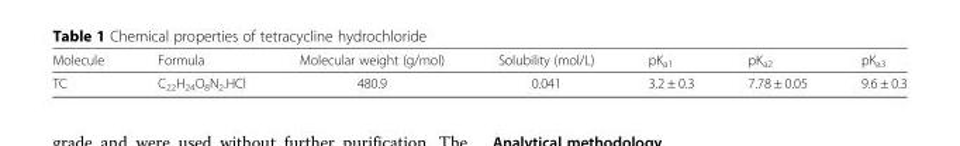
<table><thead><tr><td>Molecule</td><td>Formula</td><td>Molecular weight (g/mol)</td><td>Solubility (mol/L)</td><td>pK<sub>a1</sub></td><td>pK<sub>a2</sub></td><td>pK<sub>a3</sub></td></tr></thead><tbody><tr><td>TC</td><td>C<sub>22</sub>H<sub>24</sub>O<sub>8</sub>N<sub>2</sub>.HCl</td><td>480.9</td><td>0.041</td><td>3.2 ± 0.3</td><td>7.78 ± 0.05</td><td>9.6 ± 0.3</td></tr></tbody></table>